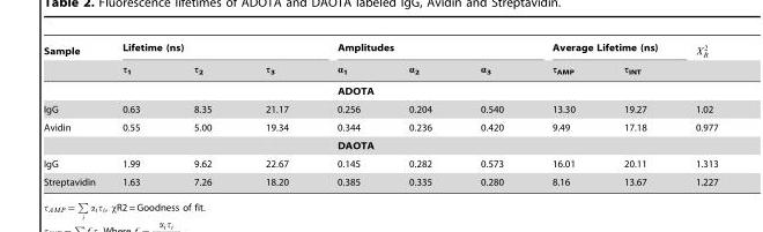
<table><thead><tr><td rowspan="2">Sample</td><td colspan="3">Lifetime (ns)</td><td colspan="3">Amplitudes</td><td colspan="2">Average Lifetime (ns)</td><td rowspan="2">X 2 R</td></tr><tr><td>τ<sub>1</sub></td><td>τ<sub>2</sub></td><td>τ<sub>3</sub></td><td>α<sub>1</sub></td><td>α<sub>2</sub></td><td>α<sub>3</sub></td><td>τ<sub>AMP</sub></td><td>τ<sub>INT</sub></td></tr></thead><tbody><tr><td></td><td></td><td></td><td></td><td>ADOTA</td><td></td><td></td><td></td><td></td><td></td></tr><tr><td>IgG</td><td>0.63</td><td>8.35</td><td>21.17</td><td>0.256</td><td>0.204</td><td>0.540</td><td>13.30</td><td>19.27</td><td>1.02</td></tr><tr><td rowspan="2">Avidin</td><td>0.55</td><td>5.00</td><td>19.34</td><td>0.344</td><td>0.236</td><td>0.420</td><td>9.49</td><td>17.18</td><td>0.977</td></tr><tr><td></td><td></td><td></td><td>DAOTA</td><td></td><td></td><td></td><td></td><td></td></tr><tr><td>IgG</td><td>1.99</td><td>9.62</td><td>22.67</td><td>0.145</td><td>0.282</td><td>0.573</td><td>16.01</td><td>20.11</td><td>1.313</td></tr><tr><td>Streptavidin</td><td>1.63</td><td>7.26</td><td>18.20</td><td>0.385</td><td>0.335</td><td>0.280</td><td>8.16</td><td>13.67</td><td>1.227</td></tr></tbody></table>